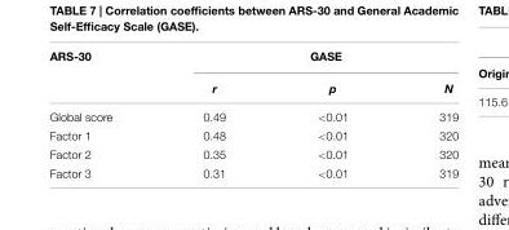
<table><thead><tr><td rowspan="2">ARS-30</td><td colspan="3">GASE</td></tr><tr><td>r</td><td>p</td><td>N</td></tr></thead><tbody><tr><td>Global score</td><td>0.49</td><td>&lt;0.01</td><td>319</td></tr><tr><td>Factor 1</td><td>0.48</td><td>&lt;0.01</td><td>320</td></tr><tr><td>Factor 2</td><td>0.35</td><td>&lt;0.01</td><td>320</td></tr><tr><td>Factor 3</td><td>0.31</td><td>&lt;0.01</td><td>319</td></tr></tbody></table>